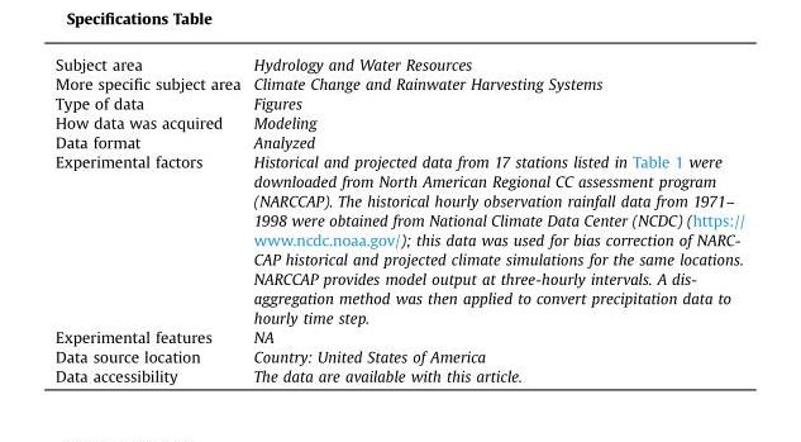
<table><tbody><tr><td>Subject area</td><td>Hydrology and Water Resources</td></tr><tr><td>More specific subject area</td><td>Climate Change and Rainwater Harvesting Systems</td></tr><tr><td>Type of data</td><td>Figures</td></tr><tr><td>How data was acquired</td><td>Modeling</td></tr><tr><td>Data format</td><td>Analyzed</td></tr><tr><td>Experimental factors</td><td>Historical and projected data from 17 stations listed in Table 1 were downloaded from North American Regional CC assessment program (NARCCAP). The historical hourly observation rainfall data from 1971– 1998 were obtained from National Climate Data Center (NCDC) (https:// www.ncdc.noaa.gov/); this data was used for bias correction of NARC- CAP historical and projected climate simulations for the same locations. NARCCAP provides model output at three-hourly intervals. A dis- aggregation method was then applied to convert precipitation data to hourly time step.</td></tr><tr><td>Experimental features</td><td>NA</td></tr><tr><td>Data source location</td><td>Country: United States of America</td></tr><tr><td>Data accessibility</td><td>The data are available with this article.</td></tr></tbody></table>